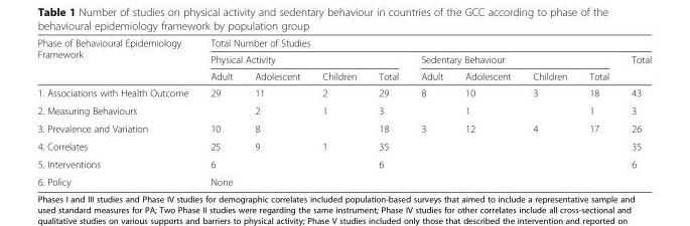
<table><thead><tr><td rowspan="3">Phase of Behavioural Epidemiology Framework</td><td colspan="9">Total Number of Studies</td></tr><tr><td colspan="4">Physical Activity</td><td colspan="4">Sedentary Behaviour</td><td rowspan="2">Total</td></tr><tr><td>Adult</td><td>Adolescent</td><td>Children</td><td>Total</td><td>Adult</td><td>Adolescent</td><td>Children</td><td>Total</td></tr></thead><tbody><tr><td>1. Associations with Health Outcome</td><td>29</td><td>11</td><td>2</td><td>29</td><td>8</td><td>10</td><td>3</td><td>18</td><td>43</td></tr><tr><td>2. Measuring Behaviours</td><td></td><td>2</td><td>1</td><td>3</td><td></td><td>1</td><td></td><td>1</td><td>3</td></tr><tr><td>3. Prevalence and Variation</td><td>10</td><td>8</td><td></td><td>18</td><td>3</td><td>12</td><td>4</td><td>17</td><td>26</td></tr><tr><td>4. Correlates</td><td>25</td><td>9</td><td>1</td><td>35</td><td></td><td></td><td></td><td></td><td>35</td></tr><tr><td>5. Interventions</td><td>6</td><td></td><td></td><td>6</td><td></td><td></td><td></td><td></td><td>6</td></tr><tr><td>6. Policy</td><td colspan="9">None</td></tr></tbody></table>